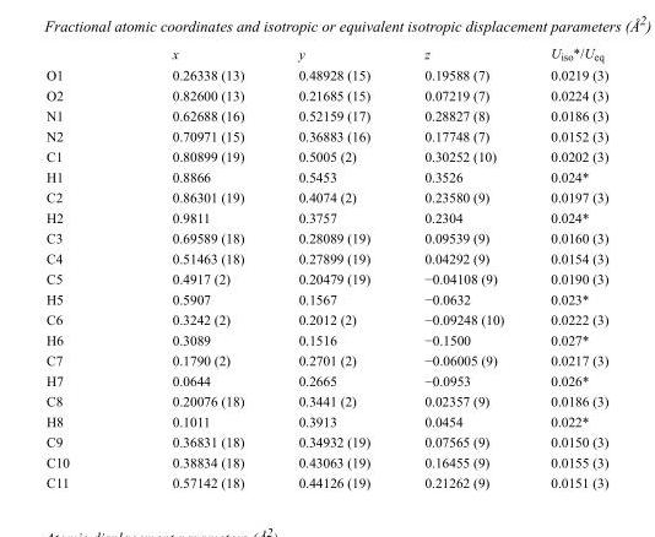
<table><thead><tr><td></td><td>x</td><td>y</td><td>z</td><td>U<sub>iso</sub>*/U<sub>eq</sub></td></tr></thead><tbody><tr><td>O1</td><td>0.26338 (13)</td><td>0.48928 (15)</td><td>0.19588 (7)</td><td>0.0219 (3)</td></tr><tr><td>O2</td><td>0.82600 (13)</td><td>0.21685 (15)</td><td>0.07219 (7)</td><td>0.0224 (3)</td></tr><tr><td>N1</td><td>0.62688 (16)</td><td>0.52159 (17)</td><td>0.28827 (8)</td><td>0.0186 (3)</td></tr><tr><td>N2</td><td>0.70971 (15)</td><td>0.36883 (16)</td><td>0.17748 (7)</td><td>0.0152 (3)</td></tr><tr><td>C1</td><td>0.80899 (19)</td><td>0.5005 (2)</td><td>0.30252 (10)</td><td>0.0202 (3)</td></tr><tr><td>H1</td><td>0.8866</td><td>0.5453</td><td>0.3526</td><td>0.024*</td></tr><tr><td>C2</td><td>0.86301 (19)</td><td>0.4074 (2)</td><td>0.23580 (9)</td><td>0.0197 (3)</td></tr><tr><td>H2</td><td>0.9811</td><td>0.3757</td><td>0.2304</td><td>0.024*</td></tr><tr><td>C3</td><td>0.69589 (18)</td><td>0.28089 (19)</td><td>0.09539 (9)</td><td>0.0160 (3)</td></tr><tr><td>C4</td><td>0.51463 (18)</td><td>0.27899 (19)</td><td>0.04292 (9)</td><td>0.0154 (3)</td></tr><tr><td>C5</td><td>0.4917 (2)</td><td>0.20479 (19)</td><td>−0.04108 (9)</td><td>0.0190 (3)</td></tr><tr><td>H5</td><td>0.5907</td><td>0.1567</td><td>−0.0632</td><td>0.023*</td></tr><tr><td>C6</td><td>0.3242 (2)</td><td>0.2012 (2)</td><td>−0.09248 (10)</td><td>0.0222 (3)</td></tr><tr><td>H6</td><td>0.3089</td><td>0.1516</td><td>−0.1500</td><td>0.027*</td></tr><tr><td>C7</td><td>0.1790 (2)</td><td>0.2701 (2)</td><td>−0.06005 (9)</td><td>0.0217 (3)</td></tr><tr><td>H7</td><td>0.0644</td><td>0.2665</td><td>−0.0953</td><td>0.026*</td></tr><tr><td>C8</td><td>0.20076 (18)</td><td>0.3441 (2)</td><td>0.02357 (9)</td><td>0.0186 (3)</td></tr><tr><td>H8</td><td>0.1011</td><td>0.3913</td><td>0.0454</td><td>0.022*</td></tr><tr><td>C9</td><td>0.36831 (18)</td><td>0.34932 (19)</td><td>0.07565 (9)</td><td>0.0150 (3)</td></tr><tr><td>C10</td><td>0.38834 (18)</td><td>0.43063 (19)</td><td>0.16455 (9)</td><td>0.0155 (3)</td></tr><tr><td>C11</td><td>0.57142 (18)</td><td>0.44126 (19)</td><td>0.21262 (9)</td><td>0.0151 (3)</td></tr></tbody></table>